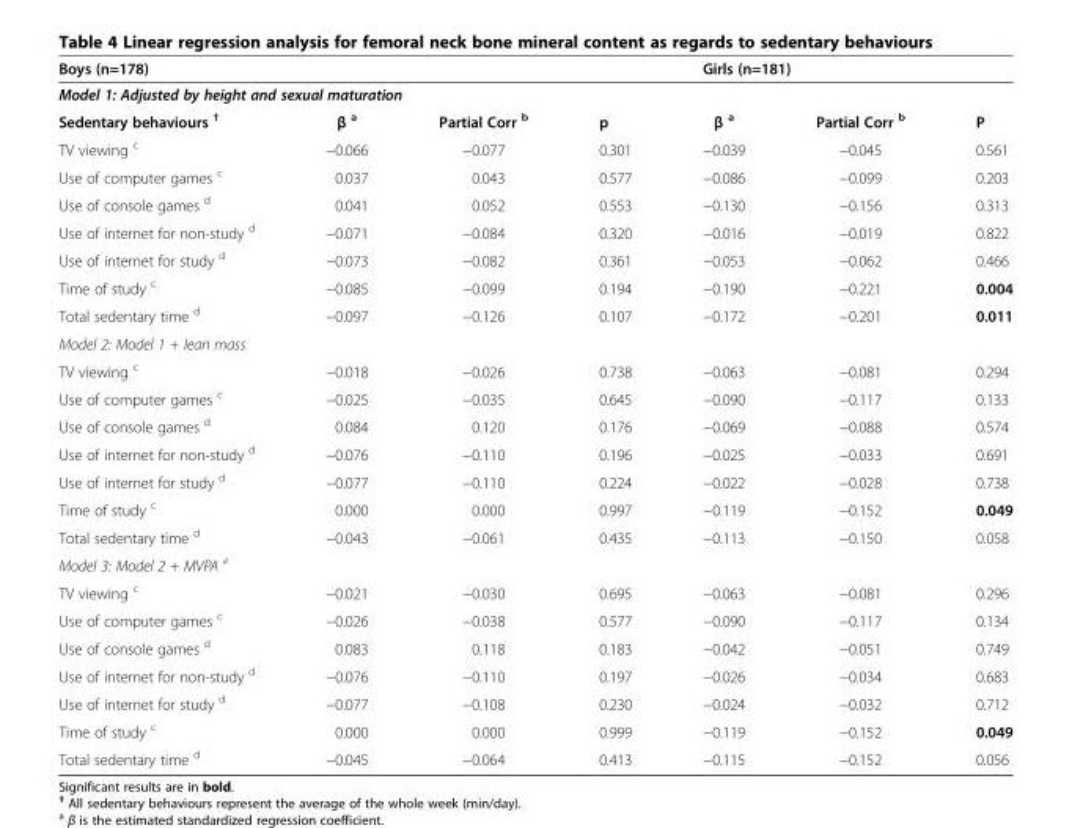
<table><thead><tr><td colspan="4">Boys (n=178)</td><td colspan="3">Girls (n=181)</td></tr><tr><td colspan="7">Model 1: Adjusted by height and sexual maturation</td></tr><tr><td>Sedentary behaviours <sup>†</sup></td><td>β <sup>a</sup></td><td>Partial Corr <sup>b</sup></td><td>p</td><td>β <sup>a</sup></td><td>Partial Corr <sup>b</sup></td><td>P</td></tr></thead><tbody><tr><td>TV viewing <sup>c</sup></td><td>−0.066</td><td>−0.077</td><td>0.301</td><td>−0.039</td><td>−0.045</td><td>0.561</td></tr><tr><td>Use of computer games <sup>c</sup></td><td>0.037</td><td>0.043</td><td>0.577</td><td>−0.086</td><td>−0.099</td><td>0.203</td></tr><tr><td>Use of console games <sup>d</sup></td><td>0.041</td><td>0.052</td><td>0.553</td><td>−0.130</td><td>−0.156</td><td>0.313</td></tr><tr><td>Use of internet for non-study <sup>d</sup></td><td>−0.071</td><td>−0.084</td><td>0.320</td><td>−0.016</td><td>−0.019</td><td>0.822</td></tr><tr><td>Use of internet for study <sup>d</sup></td><td>−0.073</td><td>−0.082</td><td>0.361</td><td>−0.053</td><td>−0.062</td><td>0.466</td></tr><tr><td>Time of study <sup>c</sup></td><td>−0.085</td><td>−0.099</td><td>0.194</td><td>−0.190</td><td>−0.221</td><td>0.004</td></tr><tr><td>Total sedentary time <sup>d</sup></td><td>−0.097</td><td>−0.126</td><td>0.107</td><td>−0.172</td><td>−0.201</td><td>0.011</td></tr><tr><td colspan="7">Model 2: Model 1 + lean mass</td></tr><tr><td>TV viewing <sup>c</sup></td><td>−0.018</td><td>−0.026</td><td>0.738</td><td>−0.063</td><td>−0.081</td><td>0.294</td></tr><tr><td>Use of computer games <sup>c</sup></td><td>−0.025</td><td>−0.035</td><td>0.645</td><td>−0.090</td><td>−0.117</td><td>0.133</td></tr><tr><td>Use of console games <sup>d</sup></td><td>0.084</td><td>0.120</td><td>0.176</td><td>−0.069</td><td>−0.088</td><td>0.574</td></tr><tr><td>Use of internet for non-study <sup>d</sup></td><td>−0.076</td><td>−0.110</td><td>0.196</td><td>−0.025</td><td>−0.033</td><td>0.691</td></tr><tr><td>Use of internet for study <sup>d</sup></td><td>−0.077</td><td>−0.110</td><td>0.224</td><td>−0.022</td><td>−0.028</td><td>0.738</td></tr><tr><td>Time of study <sup>c</sup></td><td>0.000</td><td>0.000</td><td>0.997</td><td>−0.119</td><td>−0.152</td><td>0.049</td></tr><tr><td>Total sedentary time <sup>d</sup></td><td>−0.043</td><td>−0.061</td><td>0.435</td><td>−0.113</td><td>−0.150</td><td>0.058</td></tr><tr><td colspan="7">Model 3: Model 2 + MVPA <sup>e</sup></td></tr><tr><td>TV viewing <sup>c</sup></td><td>−0.021</td><td>−0.030</td><td>0.695</td><td>−0.063</td><td>−0.081</td><td>0.296</td></tr><tr><td>Use of computer games <sup>c</sup></td><td>−0.026</td><td>−0.038</td><td>0.577</td><td>−0.090</td><td>−0.117</td><td>0.134</td></tr><tr><td>Use of console games <sup>d</sup></td><td>0.083</td><td>0.118</td><td>0.183</td><td>−0.042</td><td>−0.051</td><td>0.749</td></tr><tr><td>Use of internet for non-study <sup>d</sup></td><td>−0.076</td><td>−0.110</td><td>0.197</td><td>−0.026</td><td>−0.034</td><td>0.683</td></tr><tr><td>Use of internet for study <sup>d</sup></td><td>−0.077</td><td>−0.108</td><td>0.230</td><td>−0.024</td><td>−0.032</td><td>0.712</td></tr><tr><td>Time of study <sup>c</sup></td><td>0.000</td><td>0.000</td><td>0.999</td><td>−0.119</td><td>−0.152</td><td>0.049</td></tr><tr><td>Total sedentary time <sup>d</sup></td><td>−0.045</td><td>−0.064</td><td>0.413</td><td>−0.115</td><td>−0.152</td><td>0.056</td></tr></tbody></table>